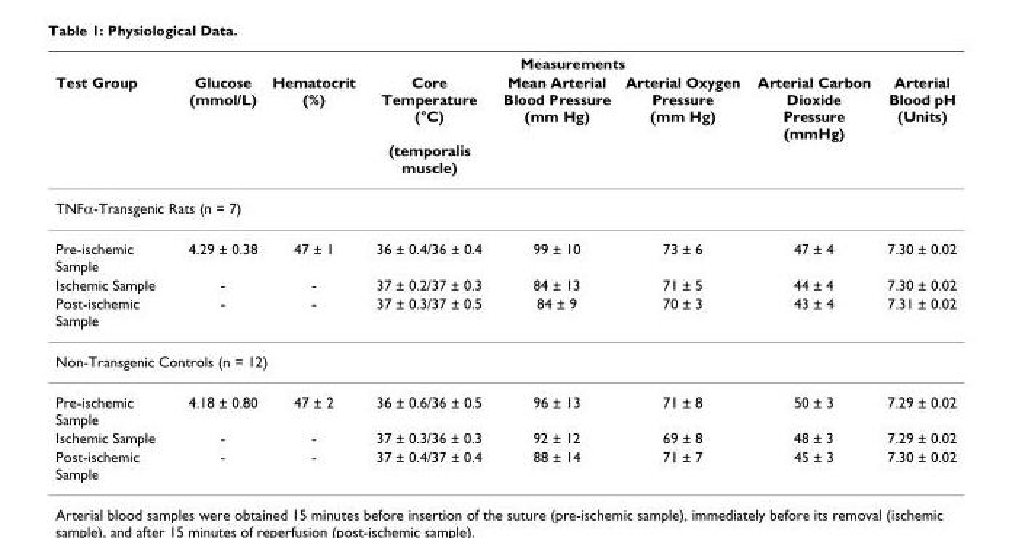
<table><thead><tr><td rowspan="2">Test Group</td><td colspan="7">Measurements</td></tr><tr><td>Glucose (mmol/L)</td><td>Hematocrit (%)</td><td>Core Temperature (°C) (temporalis muscle)</td><td>Mean Arterial Blood Pressure (mm Hg)</td><td>Arterial Oxygen Pressure (mm Hg)</td><td>Arterial Carbon Dioxide Pressure (mmHg)</td><td>Arterial Blood pH (Units)</td></tr></thead><tbody><tr><td colspan="8">TNFα-Transgenic Rats (n = 7)</td></tr><tr><td>Pre-ischemic Sample</td><td>4.29 ± 0.38</td><td>47 ± 1</td><td>36 ± 0.4/36 ± 0.4</td><td>99 ± 10</td><td>73 ± 6</td><td>47 ± 4</td><td>7.30 ± 0.02</td></tr><tr><td>Ischemic Sample</td><td>-</td><td>-</td><td>37 ± 0.2/37 ± 0.3</td><td>84 ± 13</td><td>71 ± 5</td><td>44 ± 4</td><td>7.30 ± 0.02</td></tr><tr><td>Post-ischemic Sample</td><td>-</td><td>-</td><td>37 ± 0.3/37 ± 0.5</td><td>84 ± 9</td><td>70 ± 3</td><td>43 ± 4</td><td>7.31 ± 0.02</td></tr><tr><td colspan="8">Non-Transgenic Controls (n = 12)</td></tr><tr><td>Pre-ischemic Sample</td><td>4.18 ± 0.80</td><td>47 ± 2</td><td>36 ± 0.6/36 ± 0.5</td><td>96 ± 13</td><td>71 ± 8</td><td>50 ± 3</td><td>7.29 ± 0.02</td></tr><tr><td>Ischemic Sample</td><td>-</td><td>-</td><td>37 ± 0.3/36 ± 0.3</td><td>92 ± 12</td><td>69 ± 8</td><td>48 ± 3</td><td>7.29 ± 0.02</td></tr><tr><td>Post-ischemic Sample</td><td>-</td><td>-</td><td>37 ± 0.4/37 ± 0.4</td><td>88 ± 14</td><td>71 ± 7</td><td>45 ± 3</td><td>7.30 ± 0.02</td></tr></tbody></table>